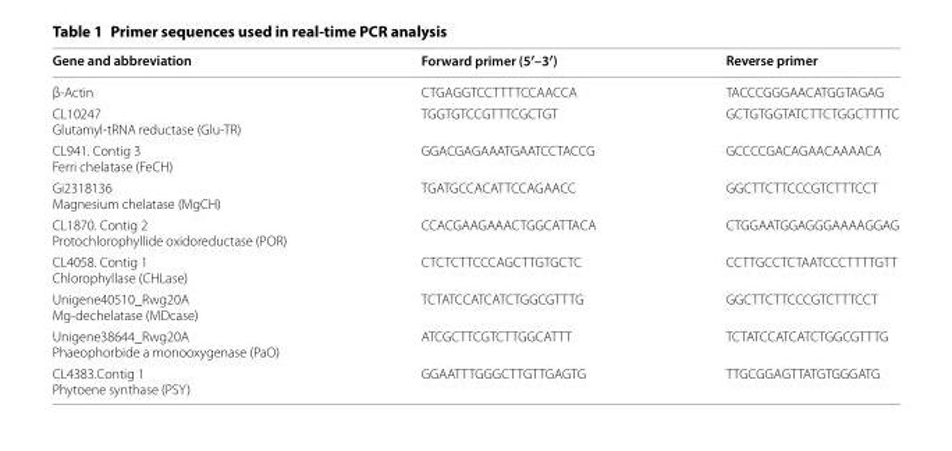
<table><thead><tr><td>Gene and abbreviation</td><td>Forward primer (5′–3′)</td><td>Reverse primer</td></tr></thead><tbody><tr><td>β-Actin</td><td>CTGAGGTCCTTTTCCAACCA</td><td>TACCCGGGAACATGGTAGAG</td></tr><tr><td>CL10247 Glutamyl-tRNA reductase (Glu-TR)</td><td>TGGTGTCCGTTTCGCTGT</td><td>GCTGTGGTATCTTCTGGCTTTTC</td></tr><tr><td>CL941. Contig 3 Ferri chelatase (FeCH)</td><td>GGACGAGAAATGAATCCTACCG</td><td>GCCCCGACAGAACAAAACA</td></tr><tr><td>Gi2318136 Magnesium chelatase (MgCH)</td><td>TGATGCCACATTCCAGAACC</td><td>GGCTTCTTCCCGTCTTTCCT</td></tr><tr><td>CL1870. Contig 2 Protochlorophyllide oxidoreductase (POR)</td><td>CCACGAAGAAACTGGCATTACA</td><td>CTGGAATGGAGGGAAAAGGAG</td></tr><tr><td>CL4058. Contig 1 Chlorophyllase (CHLase)</td><td>CTCTCTTCCCAGCTTGTGCTC</td><td>CCTTGCCTCTAATCCCTTTTGTT</td></tr><tr><td>Unigene40510_Rwg20A Mg-dechelatase (MDcase)</td><td>TCTATCCATCATCTGGCGTTTG</td><td>GGCTTCTTCCCGTCTTTCCT</td></tr><tr><td>Unigene38644_Rwg20A Phaeophorbide a monooxygenase (PaO)</td><td>ATCGCTTCGTCTTGGCATTT</td><td>TCTATCCATCATCTGGCGTTTG</td></tr><tr><td>CL4383.Contig 1 Phytoene synthase (PSY)</td><td>GGAATTTGGGCTTGTTGAGTG</td><td>TTGCGGAGTTATGTGGGATG</td></tr></tbody></table>